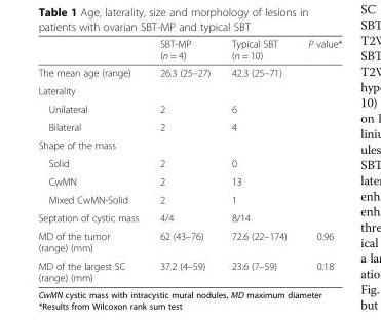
<table><thead><tr><td></td><td>SBT-MP (n = 4)</td><td>Typical SBT (n = 10)</td><td>P value*</td></tr></thead><tbody><tr><td>The mean age (range)</td><td>26.3 (25–27)</td><td>42.3 (25–71)</td><td></td></tr><tr><td colspan="4">Laterality</td></tr><tr><td>Unilateral</td><td>2</td><td>6</td><td></td></tr><tr><td>Bilateral</td><td>2</td><td>4</td><td></td></tr><tr><td colspan="4">Shape of the mass</td></tr><tr><td>Solid</td><td>2</td><td>0</td><td></td></tr><tr><td>CwMN</td><td>2</td><td>13</td><td></td></tr><tr><td>Mixed CwMN-Solid</td><td>2</td><td>1</td><td></td></tr><tr><td>Septation of cystic mass</td><td>4/4</td><td>8/14</td><td></td></tr><tr><td>MD of the tumor (range) (mm)</td><td>62 (43–76)</td><td>72.6 (22–174)</td><td>0.96</td></tr><tr><td>MD of the largest SC (range) (mm)</td><td>37.2 (4–59)</td><td>23.6 (7–59)</td><td>0.18</td></tr></tbody></table>